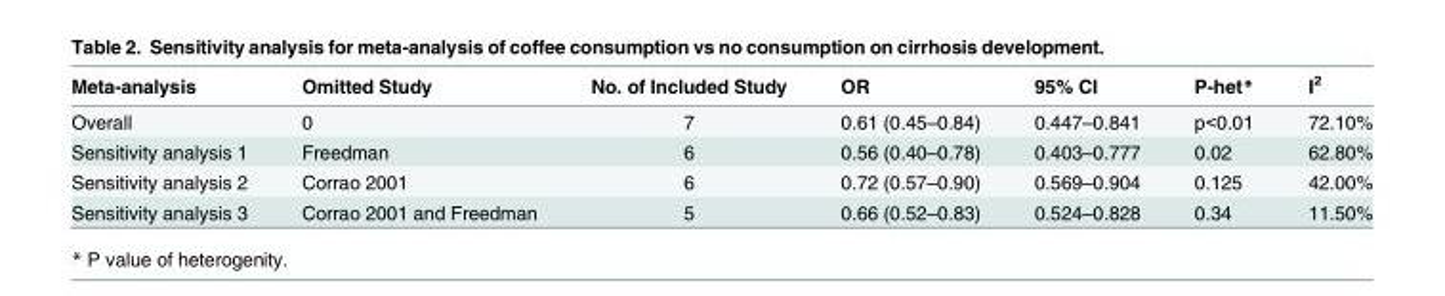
<table><thead><tr><td>Meta-analysis</td><td>Omitted Study</td><td>No. of Included Study</td><td>OR</td><td>95% CI</td><td>P-het*</td><td>I<sup>2</sup></td></tr></thead><tbody><tr><td>Overall</td><td>0</td><td>7</td><td>0.61 (0.45–0.84)</td><td>0.447–0.841</td><td>p&lt;0.01</td><td>72.10%</td></tr><tr><td>Sensitivity analysis 1</td><td>Freedman</td><td>6</td><td>0.56 (0.40–0.78)</td><td>0.403–0.777</td><td>0.02</td><td>62.80%</td></tr><tr><td>Sensitivity analysis 2</td><td>Corrao 2001</td><td>6</td><td>0.72 (0.57–0.90)</td><td>0.569–0.904</td><td>0.125</td><td>42.00%</td></tr><tr><td>Sensitivity analysis 3</td><td>Corrao 2001 and Freedman</td><td>5</td><td>0.66 (0.52–0.83)</td><td>0.524–0.828</td><td>0.34</td><td>11.50%</td></tr></tbody></table>